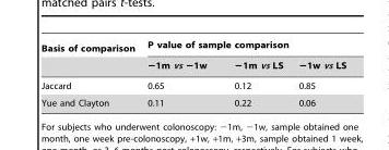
<table><thead><tr><td rowspan="2">Basis of comparison</td><td colspan="3">P value of sample comparison</td></tr><tr><td>−1m vs −1w</td><td>−1m vs LS</td><td>−1w vs LS</td></tr></thead><tbody><tr><td>Jaccard</td><td>0.65</td><td>0.12</td><td>0.85</td></tr><tr><td>Yue and Clayton</td><td>0.11</td><td>0.22</td><td>0.06</td></tr></tbody></table>